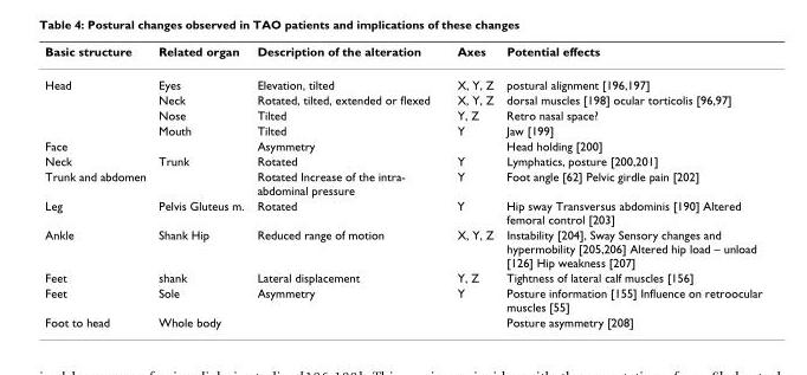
<table><thead><tr><td>Basic structure</td><td>Related organ</td><td>Description of the alteration</td><td>Axes</td><td>Potential effects</td></tr></thead><tbody><tr><td rowspan="4">Head</td><td>Eyes</td><td>Elevation, tilted</td><td>X, Y, Z</td><td>postural alignment [196,197]</td></tr><tr><td>Neck</td><td>Rotated, tilted, extended or flexed</td><td>X, Y, Z</td><td>dorsal muscles [198] ocular torticolis [96,97]</td></tr><tr><td>Nose</td><td>Tilted</td><td>Y, Z</td><td>Retro nasal space?</td></tr><tr><td>Mouth</td><td>Tilted</td><td>Y</td><td>Jaw [199]</td></tr><tr><td>Face</td><td></td><td>Asymmetry</td><td></td><td>Head holding [200]</td></tr><tr><td>Neck</td><td>Trunk</td><td>Rotated</td><td>Y</td><td>Lymphatics, posture [200,201]</td></tr><tr><td>Trunk and abdomen</td><td></td><td>Rotated Increase of the intra- abdominal pressure</td><td>Y</td><td>Foot angle [62] Pelvic girdle pain [202]</td></tr><tr><td>Leg</td><td>Pelvis Gluteus m.</td><td>Rotated</td><td>Y</td><td>Hip sway Transversus abdominis [190] Altered femoral control [203]</td></tr><tr><td>Ankle</td><td>Shank Hip</td><td>Reduced range of motion</td><td>X, Y, Z</td><td>Instability [204], Sway Sensory changes and hypermobility [205,206] Altered hip load – unload [126] Hip weakness [207]</td></tr><tr><td>Feet</td><td>shank</td><td>Lateral displacement</td><td>Y, Z</td><td>Tightness of lateral calf muscles [156]</td></tr><tr><td>Feet</td><td>Sole</td><td>Asymmetry</td><td>Y</td><td>Posture information [155] Influence on retroocular muscles [55]</td></tr><tr><td>Foot to head</td><td>Whole body</td><td></td><td></td><td>Posture asymmetry [208]</td></tr></tbody></table>